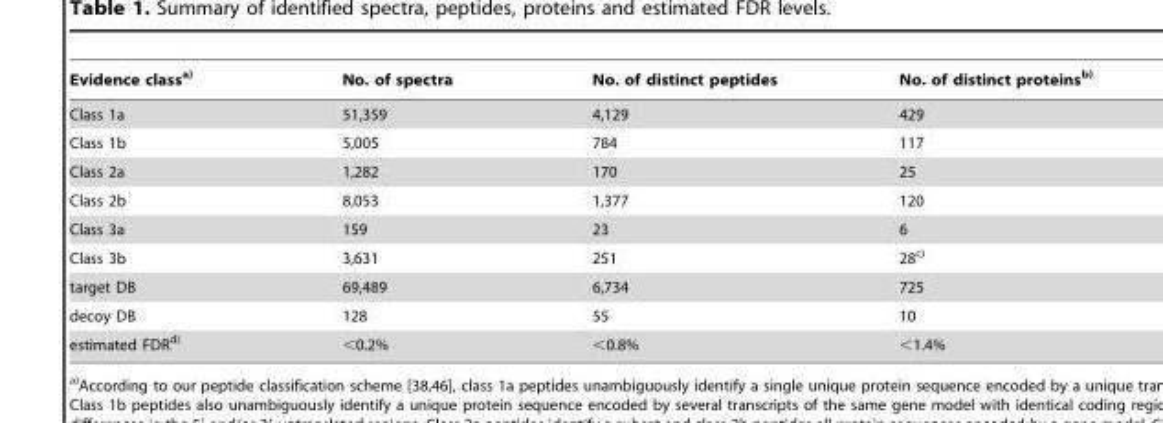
<table><thead><tr><td>Evidence classa)</td><td>No. of spectra</td><td>No. of distinct peptides</td><td>No. of distinct proteinsb)</td></tr></thead><tbody><tr><td>Class 1a</td><td>51,359</td><td>4,129</td><td>429</td></tr><tr><td>Class 1b</td><td>5,005</td><td>784</td><td>117</td></tr><tr><td>Class 2a</td><td>1,282</td><td>170</td><td>25</td></tr><tr><td>Class 2b</td><td>8,053</td><td>1,377</td><td>120</td></tr><tr><td>Class 3a</td><td>159</td><td>23</td><td>6</td></tr><tr><td>Class 3b</td><td>3,631</td><td>251</td><td>28c)</td></tr><tr><td>target DB</td><td>69,489</td><td>6,734</td><td>725</td></tr><tr><td>decoy DB</td><td>128</td><td>55</td><td>10</td></tr><tr><td>estimated FDRd)</td><td>&lt;0.2%</td><td>&lt;0.8%</td><td>&lt;1.4%</td></tr></tbody></table>